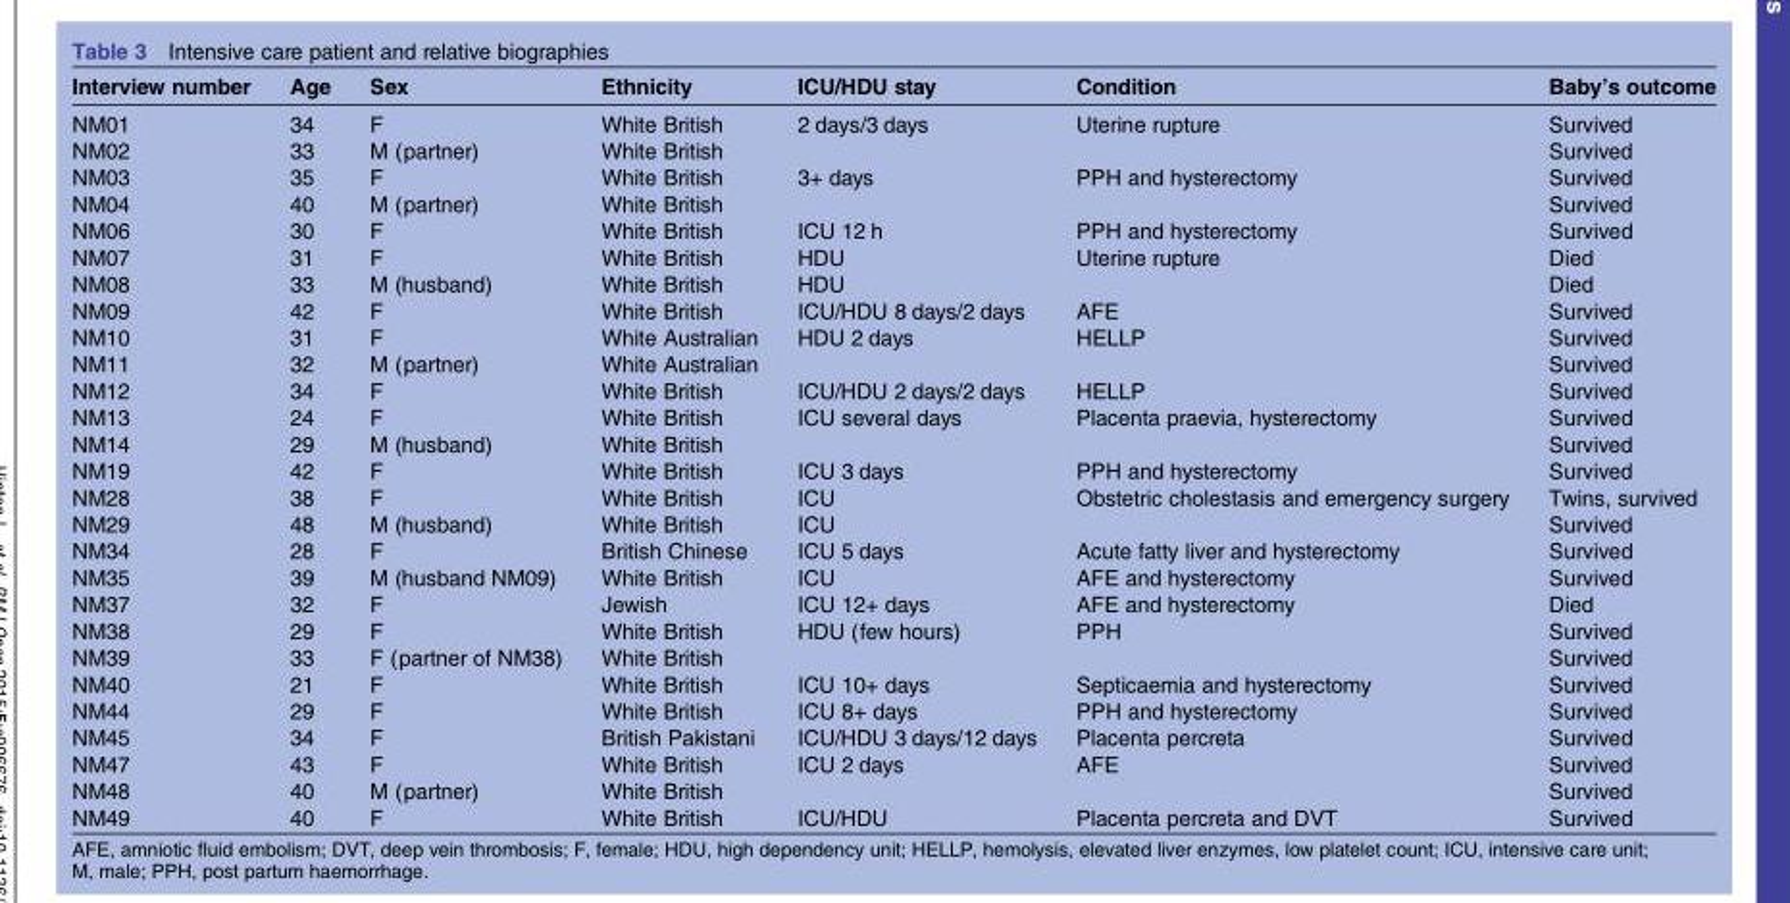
<table><thead><tr><td>Interview number</td><td>Age</td><td>Sex</td><td>Ethnicity</td><td>ICU/HDU stay</td><td>Condition</td><td>Baby’s outcome</td></tr></thead><tbody><tr><td>NM01</td><td>34</td><td>F</td><td>White British</td><td>2 days/3 days</td><td>Uterine rupture</td><td>Survived</td></tr><tr><td>NM02</td><td>33</td><td>M (partner)</td><td>White British</td><td></td><td></td><td>Survived</td></tr><tr><td>NM03</td><td>35</td><td>F</td><td>White British</td><td>3+ days</td><td>PPH and hysterectomy</td><td>Survived</td></tr><tr><td>NM04</td><td>40</td><td>M (partner)</td><td>White British</td><td></td><td></td><td>Survived</td></tr><tr><td>NM06</td><td>30</td><td>F</td><td>White British</td><td>ICU 12 h</td><td>PPH and hysterectomy</td><td>Survived</td></tr><tr><td>NM07</td><td>31</td><td>F</td><td>White British</td><td>HDU</td><td>Uterine rupture</td><td>Died</td></tr><tr><td>NM08</td><td>33</td><td>M (husband)</td><td>White British</td><td>HDU</td><td></td><td>Died</td></tr><tr><td>NM09</td><td>42</td><td>F</td><td>White British</td><td>ICU/HDU 8 days/2 days</td><td>AFE</td><td>Survived</td></tr><tr><td>NM10</td><td>31</td><td>F</td><td>White Australian</td><td>HDU 2 days</td><td>HELLP</td><td>Survived</td></tr><tr><td>NM11</td><td>32</td><td>M (partner)</td><td>White Australian</td><td></td><td></td><td>Survived</td></tr><tr><td>NM12</td><td>34</td><td>F</td><td>White British</td><td>ICU/HDU 2 days/2 days</td><td>HELLP</td><td>Survived</td></tr><tr><td>NM13</td><td>24</td><td>F</td><td>White British</td><td>ICU several days</td><td>Placenta praevia, hysterectomy</td><td>Survived</td></tr><tr><td>NM14</td><td>29</td><td>M (husband)</td><td>White British</td><td></td><td></td><td>Survived</td></tr><tr><td>NM19</td><td>42</td><td>F</td><td>White British</td><td>ICU 3 days</td><td>PPH and hysterectomy</td><td>Survived</td></tr><tr><td>NM28</td><td>38</td><td>F</td><td>White British</td><td>ICU</td><td>Obstetric cholestasis and emergency surgery</td><td>Twins, survived</td></tr><tr><td>NM29</td><td>48</td><td>M (husband)</td><td>White British</td><td>ICU</td><td></td><td>Survived</td></tr><tr><td>NM34</td><td>28</td><td>F</td><td>British Chinese</td><td>ICU 5 days</td><td>Acute fatty liver and hysterectomy</td><td>Survived</td></tr><tr><td>NM35</td><td>39</td><td>M (husband NM09)</td><td>White British</td><td>ICU</td><td>AFE and hysterectomy</td><td>Survived</td></tr><tr><td>NM37</td><td>32</td><td>F</td><td>Jewish</td><td>ICU 12+ days</td><td>AFE and hysterectomy</td><td>Died</td></tr><tr><td>NM38</td><td>29</td><td>F</td><td>White British</td><td>HDU (few hours)</td><td>PPH</td><td>Survived</td></tr><tr><td>NM39</td><td>33</td><td>F (partner of NM38)</td><td>White British</td><td></td><td></td><td>Survived</td></tr><tr><td>NM40</td><td>21</td><td>F</td><td>White British</td><td>ICU 10+ days</td><td>Septicaemia and hysterectomy</td><td>Survived</td></tr><tr><td>NM44</td><td>29</td><td>F</td><td>White British</td><td>ICU 8+ days</td><td>PPH and hysterectomy</td><td>Survived</td></tr><tr><td>NM45</td><td>34</td><td>F</td><td>British Pakistani</td><td>ICU/HDU 3 days/12 days</td><td>Placenta percreta</td><td>Survived</td></tr><tr><td>NM47</td><td>43</td><td>F</td><td>White British</td><td>ICU 2 days</td><td>AFE</td><td>Survived</td></tr><tr><td>NM48</td><td>40</td><td>M (partner)</td><td>White British</td><td></td><td></td><td>Survived</td></tr><tr><td>NM49</td><td>40</td><td>F</td><td>White British</td><td>ICU/HDU</td><td>Placenta percreta and DVT</td><td>Survived</td></tr></tbody></table>